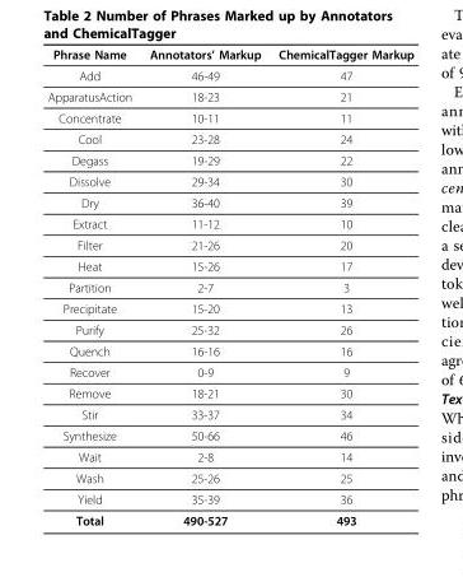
<table><thead><tr><td>Phrase Name</td><td>Annotators’ Markup</td><td>ChemicalTagger Markup</td></tr></thead><tbody><tr><td>Add</td><td>46-49</td><td>47</td></tr><tr><td>ApparatusAction</td><td>18-23</td><td>21</td></tr><tr><td>Concentrate</td><td>10-11</td><td>11</td></tr><tr><td>Cool</td><td>23-28</td><td>24</td></tr><tr><td>Degass</td><td>19-29</td><td>22</td></tr><tr><td>Dissolve</td><td>29-34</td><td>30</td></tr><tr><td>Dry</td><td>36-40</td><td>39</td></tr><tr><td>Extract</td><td>11-12</td><td>10</td></tr><tr><td>Filter</td><td>21-26</td><td>20</td></tr><tr><td>Heat</td><td>15-26</td><td>17</td></tr><tr><td>Partition</td><td>2-7</td><td>3</td></tr><tr><td>Precipitate</td><td>15-20</td><td>13</td></tr><tr><td>Purify</td><td>25-32</td><td>26</td></tr><tr><td>Quench</td><td>16-16</td><td>16</td></tr><tr><td>Recover</td><td>0-9</td><td>9</td></tr><tr><td>Remove</td><td>18-21</td><td>30</td></tr><tr><td>Stir</td><td>33-37</td><td>34</td></tr><tr><td>Synthesize</td><td>50-66</td><td>46</td></tr><tr><td>Wait</td><td>2-8</td><td>14</td></tr><tr><td>Wash</td><td>25-26</td><td>25</td></tr><tr><td>Yield</td><td>35-39</td><td>36</td></tr><tr><td>Total</td><td>490-527</td><td>493</td></tr></tbody></table>